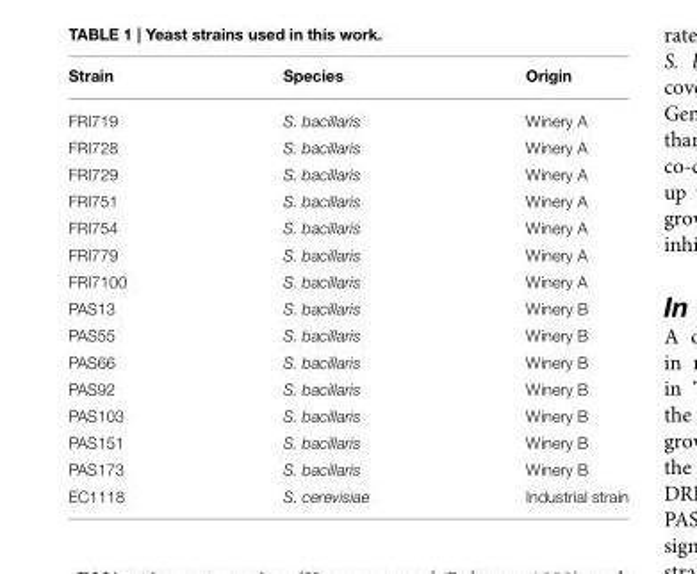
<table><thead><tr><td>Strain</td><td>Species</td><td>Origin</td></tr></thead><tbody><tr><td>FRI719</td><td>S. bacillaris</td><td>Winery A</td></tr><tr><td>FRI728</td><td>S. bacillaris</td><td>Winery A</td></tr><tr><td>FRI729</td><td>S. bacillaris</td><td>Winery A</td></tr><tr><td>FRI751</td><td>S. bacillaris</td><td>Winery A</td></tr><tr><td>FRI754</td><td>S. bacillaris</td><td>Winery A</td></tr><tr><td>FRI779</td><td>S. bacillaris</td><td>Winery A</td></tr><tr><td>FRI7100</td><td>S. bacillaris</td><td>Winery A</td></tr><tr><td>PAS13</td><td>S. bacillaris</td><td>Winery B</td></tr><tr><td>PAS55</td><td>S. bacillaris</td><td>Winery B</td></tr><tr><td>PAS66</td><td>S. bacillaris</td><td>Winery B</td></tr><tr><td>PAS92</td><td>S. bacillaris</td><td>Winery B</td></tr><tr><td>PAS103</td><td>S. bacillaris</td><td>Winery B</td></tr><tr><td>PAS151</td><td>S. bacillaris</td><td>Winery B</td></tr><tr><td>PAS173</td><td>S. bacillaris</td><td>Winery B</td></tr><tr><td>EC1118</td><td>S. cerevisiae</td><td>Industrial strain</td></tr></tbody></table>